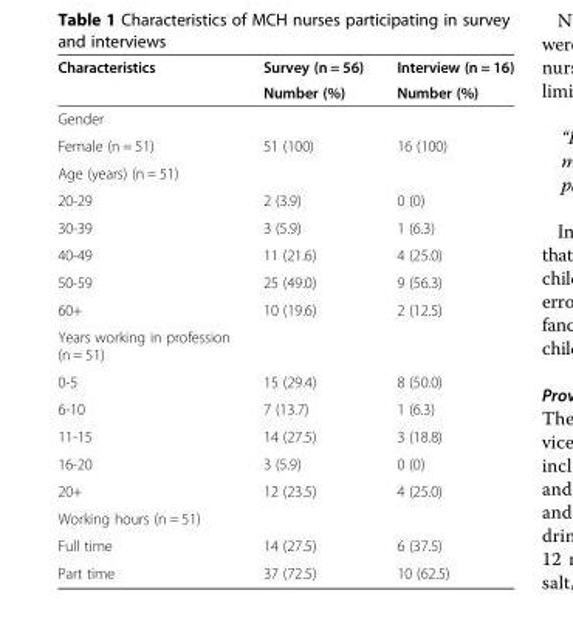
<table><thead><tr><td rowspan="2">Characteristics</td><td rowspan="2">Survey (n = 56) Number (%)</td><td rowspan="2">Interview (n = 16) Number (%)</td></tr><tr></tr></thead><tbody><tr><td colspan="3">Gender</td></tr><tr><td>Female (n = 51)</td><td>51 (100)</td><td>16 (100)</td></tr><tr><td colspan="3">Age (years) (n = 51)</td></tr><tr><td>20-29</td><td>2 (3.9)</td><td>0 (0)</td></tr><tr><td>30-39</td><td>3 (5.9)</td><td>1 (6.3)</td></tr><tr><td>40-49</td><td>11 (21.6)</td><td>4 (25.0)</td></tr><tr><td>50-59</td><td>25 (49.0)</td><td>9 (56.3)</td></tr><tr><td>60+</td><td>10 (19.6)</td><td>2 (12.5)</td></tr><tr><td colspan="3">Years working in profession (n = 51)</td></tr><tr><td>0-5</td><td>15 (29.4)</td><td>8 (50.0)</td></tr><tr><td>6-10</td><td>7 (13.7)</td><td>1 (6.3)</td></tr><tr><td>11-15</td><td>14 (27.5)</td><td>3 (18.8)</td></tr><tr><td>16-20</td><td>3 (5.9)</td><td>0 (0)</td></tr><tr><td>20+</td><td>12 (23.5)</td><td>4 (25.0)</td></tr><tr><td colspan="3">Working hours (n = 51)</td></tr><tr><td>Full time</td><td>14 (27.5)</td><td>6 (37.5)</td></tr><tr><td>Part time</td><td>37 (72.5)</td><td>10 (62.5)</td></tr></tbody></table>